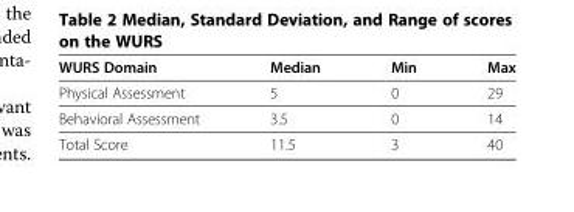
<table><thead><tr><td>WURS Domain</td><td>Median</td><td>Min</td><td>Max</td></tr></thead><tbody><tr><td>Physical Assessment</td><td>5</td><td>0</td><td>29</td></tr><tr><td>Behavioral Assessment</td><td>3.5</td><td>0</td><td>14</td></tr><tr><td>Total Score</td><td>11.5</td><td>3</td><td>40</td></tr></tbody></table>